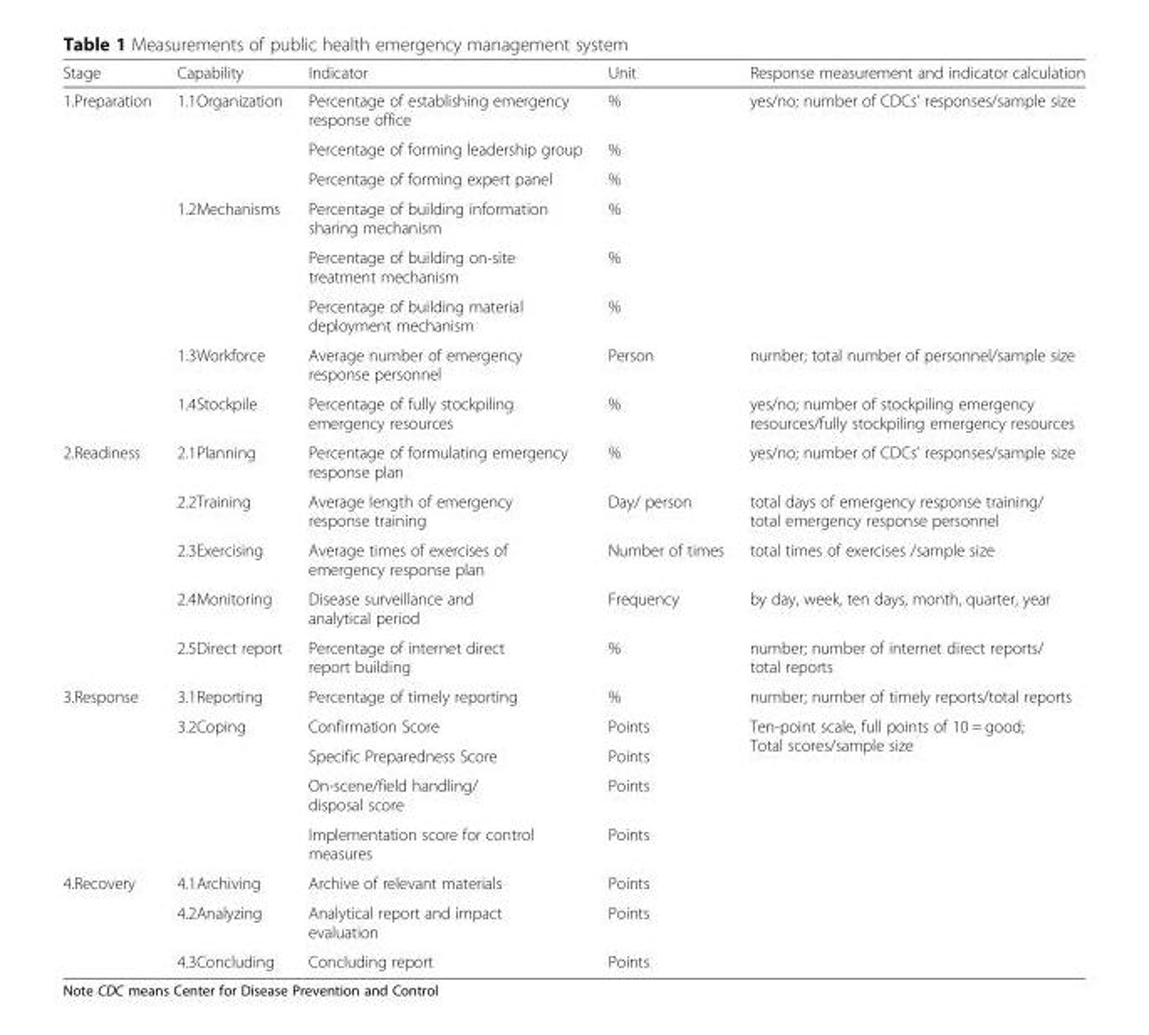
<table><thead><tr><td>Stage</td><td>Capability</td><td>Indicator</td><td>Unit</td><td>Response measurement and indicator calculation</td></tr></thead><tbody><tr><td rowspan="8">1.Preparation</td><td rowspan="3">1.1Organization</td><td>Percentage of establishing emergency response office</td><td>%</td><td rowspan="6">yes/no; number of CDCs’ responses/sample size</td></tr><tr><td>Percentage of forming leadership group</td><td>%</td></tr><tr><td>Percentage of forming expert panel</td><td>%</td></tr><tr><td rowspan="3">1.2Mechanisms</td><td>Percentage of building information sharing mechanism</td><td>%</td></tr><tr><td>Percentage of building on-site treatment mechanism</td><td>%</td></tr><tr><td>Percentage of building material deployment mechanism</td><td>%</td></tr><tr><td>1.3Workforce</td><td>Average number of emergency response personnel</td><td>Person</td><td>number; total number of personnel/sample size</td></tr><tr><td>1.4Stockpile</td><td>Percentage of fully stockpiling emergency resources</td><td>%</td><td>yes/no; number of stockpiling emergency resources/fully stockpiling emergency resources</td></tr><tr><td rowspan="5">2.Readiness</td><td>2.1Planning</td><td>Percentage of formulating emergency response plan</td><td>%</td><td>yes/no; number of CDCs’ responses/sample size</td></tr><tr><td>2.2Training</td><td>Average length of emergency response training</td><td>Day/ person</td><td>total days of emergency response training/ total emergency response personnel</td></tr><tr><td>2.3Exercising</td><td>Average times of exercises of emergency response plan</td><td>Number of times</td><td>total times of exercises /sample size</td></tr><tr><td>2.4Monitoring</td><td>Disease surveillance and analytical period</td><td>Frequency</td><td>by day, week, ten days, month, quarter, year</td></tr><tr><td>2.5Direct report</td><td>Percentage of internet direct report building</td><td>%</td><td>number; number of internet direct reports/ total reports</td></tr><tr><td rowspan="5">3.Response</td><td>3.1Reporting</td><td>Percentage of timely reporting</td><td>%</td><td>number; number of timely reports/total reports</td></tr><tr><td rowspan="4">3.2Coping</td><td>Confirmation Score</td><td>Points</td><td rowspan="7">Ten-point scale, full points of 10 = good; Total scores/sample size</td></tr><tr><td>Specific Preparedness Score</td><td>Points</td></tr><tr><td>On-scene/field handling/ disposal score</td><td>Points</td></tr><tr><td>Implementation score for control measures</td><td>Points</td></tr><tr><td rowspan="3">4.Recovery</td><td>4.1Archiving</td><td>Archive of relevant materials</td><td>Points</td></tr><tr><td>4.2Analyzing</td><td>Analytical report and impact evaluation</td><td>Points</td></tr><tr><td>4.3Concluding</td><td>Concluding report</td><td>Points</td></tr></tbody></table>